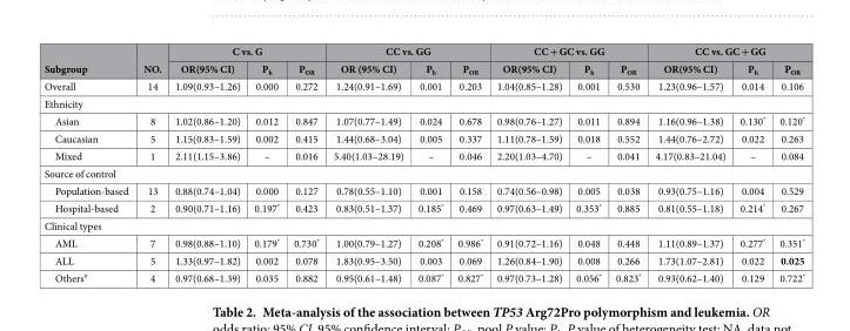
<table><thead><tr><td rowspan="2">Subgroup</td><td rowspan="2">NO.</td><td colspan="3">C vs. G</td><td colspan="3">CC vs. GG</td><td colspan="3">CC + GC vs. GG</td><td colspan="3">CC vs. GC + GG</td></tr><tr><td>OR(95% CI)</td><td>P<sub>h</sub></td><td>P<sub>OR</sub></td><td>OR (95% CI)</td><td>P<sub>h</sub></td><td>P<sub>OR</sub></td><td>OR(95% CI)</td><td>P<sub>h</sub></td><td>P<sub>OR</sub></td><td>OR(95% CI)</td><td>P<sub>h</sub></td><td>P<sub>OR</sub></td></tr></thead><tbody><tr><td>Overall</td><td>14</td><td>1.09(0.93–1.26)</td><td>0.000</td><td>0.272</td><td>1.24(0.91–1.69)</td><td>0.001</td><td>0.203</td><td>1.04(0.85–1.28)</td><td>0.001</td><td>0.530</td><td>1.23(0.96–1.57)</td><td>0.014</td><td>0.106</td></tr><tr><td colspan="14">Ethnicity</td></tr><tr><td>Asian</td><td>8</td><td>1.02(0.86–1.20)</td><td>0.012</td><td>0.847</td><td>1.07(0.77–1.49)</td><td>0.024</td><td>0.678</td><td>0.98(0.76–1.27)</td><td>0.011</td><td>0.894</td><td>1.16(0.96–1.38)</td><td>0.130*</td><td>0.120*</td></tr><tr><td>Caucasian</td><td>5</td><td>1.15(0.83–1.59)</td><td>0.002</td><td>0.415</td><td>1.44(0.68–3.04)</td><td>0.005</td><td>0.337</td><td>1.11(0.78–1.59)</td><td>0.018</td><td>0.552</td><td>1.44(0.76–2.72)</td><td>0.022</td><td>0.263</td></tr><tr><td>Mixed</td><td>1</td><td>2.11(1.15–3.86)</td><td>–</td><td>0.016</td><td>5.40(1.03–28.19)</td><td>–</td><td>0.046</td><td>2.20(1.03–4.70)</td><td>–</td><td>0.041</td><td>4.17(0.83–21.04)</td><td>–</td><td>0.084</td></tr><tr><td colspan="14">Source of control</td></tr><tr><td>Population-based</td><td>13</td><td>0.88(0.74–1.04)</td><td>0.000</td><td>0.127</td><td>0.78(0.55–1.10)</td><td>0.001</td><td>0.158</td><td>0.74(0.56–0.98)</td><td>0.005</td><td>0.038</td><td>0.93(0.75–1.16)</td><td>0.004</td><td>0.529</td></tr><tr><td>Hospital-based</td><td>2</td><td>0.90(0.71–1.16)</td><td>0.197*</td><td>0.423</td><td>0.83(0.51–1.37)</td><td>0.185*</td><td>0.469</td><td>0.97(0.63–1.49)</td><td>0.353*</td><td>0.885</td><td>0.81(0.55–1.18)</td><td>0.214*</td><td>0.267</td></tr><tr><td colspan="14">Clinical types</td></tr><tr><td>AML</td><td>7</td><td>0.98(0.88–1.10)</td><td>0.179*</td><td>0.730*</td><td>1.00(0.79–1.27)</td><td>0.208*</td><td>0.986*</td><td>0.91(0.72–1.16)</td><td>0.048</td><td>0.448</td><td>1.11(0.89–1.37)</td><td>0.277*</td><td>0.351*</td></tr><tr><td>ALL</td><td>5</td><td>1.33(0.97–1.82)</td><td>0.002</td><td>0.078</td><td>1.83(0.95–3.50)</td><td>0.003</td><td>0.069</td><td>1.26(0.84–1.90)</td><td>0.008</td><td>0.266</td><td>1.73(1.07–2.81)</td><td>0.022</td><td>0.025</td></tr><tr><td>Others#</td><td>4</td><td>0.97(0.68–1.39)</td><td>0.035</td><td>0.882</td><td>0.95(0.61–1.48)</td><td>0.087*</td><td>0.827*</td><td>0.97(0.73–1.28)</td><td>0.056*</td><td>0.823*</td><td>0.93(0.62–1.40)</td><td>0.129</td><td>0.722*</td></tr></tbody></table>